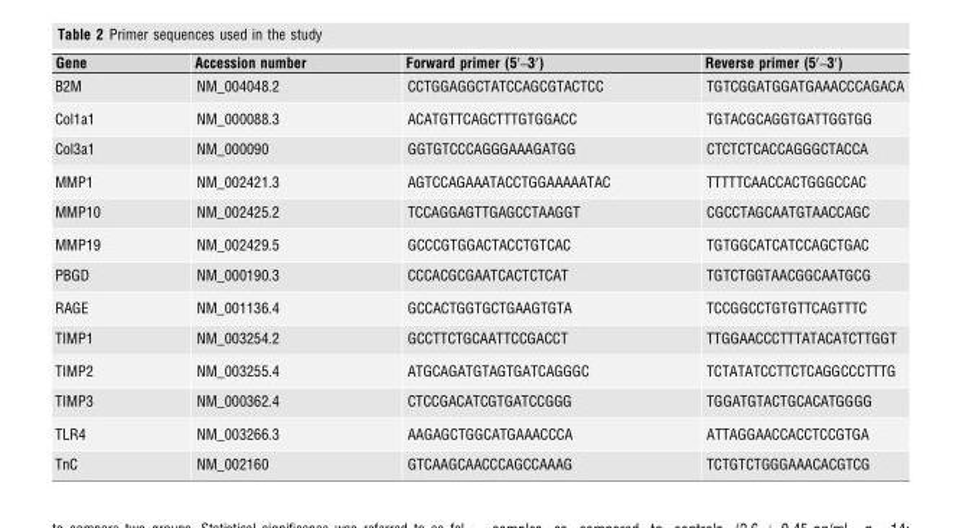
<table><thead><tr><td>Gene</td><td>Accession number</td><td>Forward primer (5′–3′)</td><td>Reverse primer (5′–3′)</td></tr></thead><tbody><tr><td>B2M</td><td>NM_004048.2</td><td>CCTGGAGGCTATCCAGCGTACTCC</td><td>TGTCGGATGGATGAAACCCAGACA</td></tr><tr><td>Col1a1</td><td>NM_000088.3</td><td>ACATGTTCAGCTTTGTGGACC</td><td>TGTACGCAGGTGATTGGTGG</td></tr><tr><td>Col3a1</td><td>NM_000090</td><td>GGTGTCCCAGGGAAAGATGG</td><td>CTCTCTCACCAGGGCTACCA</td></tr><tr><td>MMP1</td><td>NM_002421.3</td><td>AGTCCAGAAATACCTGGAAAAATAC</td><td>TTTTTCAACCACTGGGCCAC</td></tr><tr><td>MMP10</td><td>NM_002425.2</td><td>TCCAGGAGTTGAGCCTAAGGT</td><td>CGCCTAGCAATGTAACCAGC</td></tr><tr><td>MMP19</td><td>NM_002429.5</td><td>GCCCGTGGACTACCTGTCAC</td><td>TGTGGCATCATCCAGCTGAC</td></tr><tr><td>PBGD</td><td>NM_000190.3</td><td>CCCACGCGAATCACTCTCAT</td><td>TGTCTGGTAACGGCAATGCG</td></tr><tr><td>RAGE</td><td>NM_001136.4</td><td>GCCACTGGTGCTGAAGTGTA</td><td>TCCGGCCTGTGTTCAGTTTC</td></tr><tr><td>TIMP1</td><td>NM_003254.2</td><td>GCCTTCTGCAATTCCGACCT</td><td>TTGGAACCCTTTATACATCTTGGT</td></tr><tr><td>TIMP2</td><td>NM_003255.4</td><td>ATGCAGATGTAGTGATCAGGGC</td><td>TCTATATCCTTCTCAGGCCCTTTG</td></tr><tr><td>TIMP3</td><td>NM_000362.4</td><td>CTCCGACATCGTGATCCGGG</td><td>TGGATGTACTGCACATGGGG</td></tr><tr><td>TLR4</td><td>NM_003266.3</td><td>AAGAGCTGGCATGAAACCCA</td><td>ATTAGGAACCACCTCCGTGA</td></tr><tr><td>TnC</td><td>NM_002160</td><td>GTCAAGCAACCCAGCCAAAG</td><td>TCTGTCTGGGAAACACGTCG</td></tr></tbody></table>